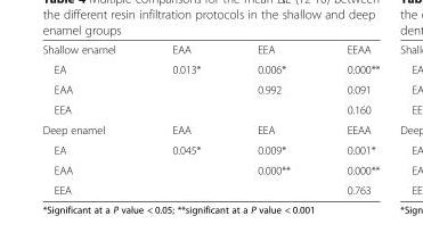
<table><tbody><tr><td>Shallow enamel</td><td>EAA</td><td>EEA</td><td>EEAA</td></tr><tr><td>EA</td><td>0.013*</td><td>0.006*</td><td>0.000**</td></tr><tr><td>EAA</td><td></td><td>0.992</td><td>0.091</td></tr><tr><td>EEA</td><td></td><td></td><td>0.160</td></tr><tr><td>Deep enamel</td><td>EAA</td><td>EEA</td><td>EEAA</td></tr><tr><td>EA</td><td>0.045*</td><td>0.009*</td><td>0.001*</td></tr><tr><td>EAA</td><td></td><td>0.000**</td><td>0.000**</td></tr><tr><td>EEA</td><td></td><td></td><td>0.763</td></tr></tbody></table>